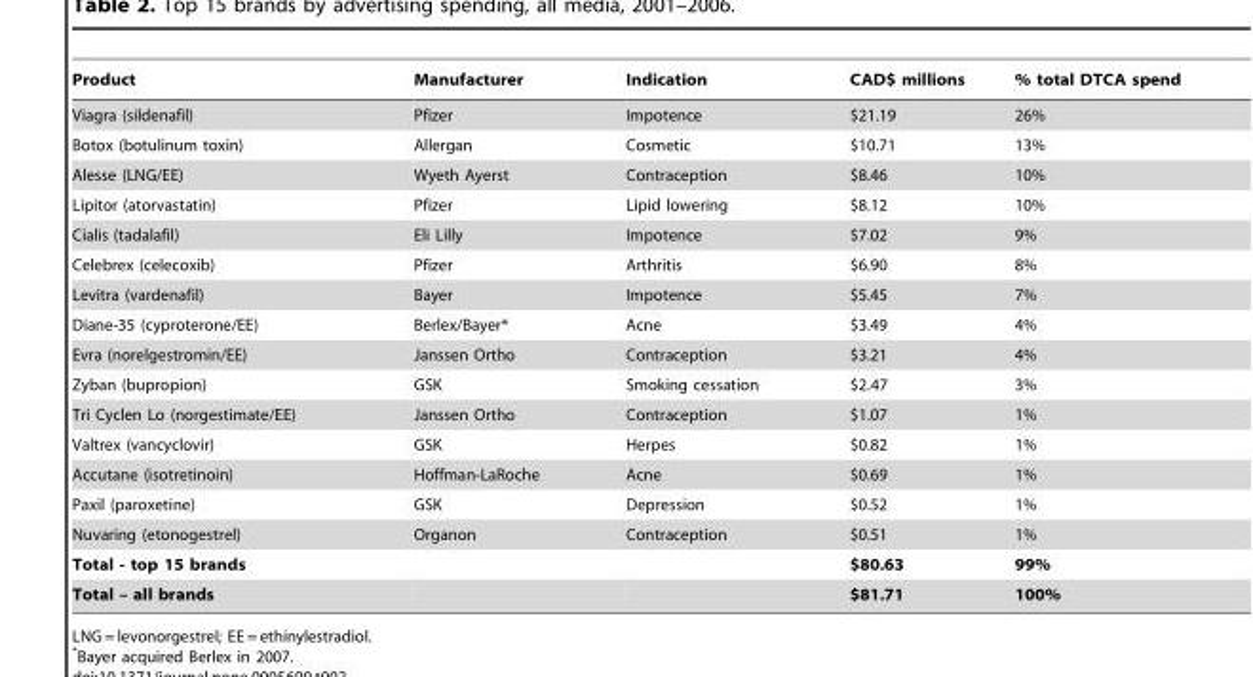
<table><thead><tr><td>Product</td><td>Manufacturer</td><td>Indication</td><td>CAD$ millions</td><td>% total DTCA spend</td></tr></thead><tbody><tr><td>Viagra (sildenafil)</td><td>Pfizer</td><td>Impotence</td><td>$21.19</td><td>26%</td></tr><tr><td>Botox (botulinum toxin)</td><td>Allergan</td><td>Cosmetic</td><td>$10.71</td><td>13%</td></tr><tr><td>Alesse (LNG/EE)</td><td>Wyeth Ayerst</td><td>Contraception</td><td>$8.46</td><td>10%</td></tr><tr><td>Lipitor (atorvastatin)</td><td>Pfizer</td><td>Lipid lowering</td><td>$8.12</td><td>10%</td></tr><tr><td>Cialis (tadalafil)</td><td>Eli Lilly</td><td>Impotence</td><td>$7.02</td><td>9%</td></tr><tr><td>Celebrex (celecoxib)</td><td>Pfizer</td><td>Arthritis</td><td>$6.90</td><td>8%</td></tr><tr><td>Levitra (vardenafil)</td><td>Bayer</td><td>Impotence</td><td>$5.45</td><td>7%</td></tr><tr><td>Diane-35 (cyproterone/EE)</td><td>Berlex/Bayer*</td><td>Acne</td><td>$3.49</td><td>4%</td></tr><tr><td>Evra (norelgestromin/EE)</td><td>Janssen Ortho</td><td>Contraception</td><td>$3.21</td><td>4%</td></tr><tr><td>Zyban (bupropion)</td><td>GSK</td><td>Smoking cessation</td><td>$2.47</td><td>3%</td></tr><tr><td>Tri Cyclen Lo (norgestimate/EE)</td><td>Janssen Ortho</td><td>Contraception</td><td>$1.07</td><td>1%</td></tr><tr><td>Valtrex (vancyclovir)</td><td>GSK</td><td>Herpes</td><td>$0.82</td><td>1%</td></tr><tr><td>Accutane (isotretinoin)</td><td>Hoffman-LaRoche</td><td>Acne</td><td>$0.69</td><td>1%</td></tr><tr><td>Paxil (paroxetine)</td><td>GSK</td><td>Depression</td><td>$0.52</td><td>1%</td></tr><tr><td>Nuvaring (etonogestrel)</td><td>Organon</td><td>Contraception</td><td>$0.51</td><td>1%</td></tr><tr><td>Total - top 15 brands</td><td></td><td></td><td>$80.63</td><td>99%</td></tr><tr><td>Total – all brands</td><td></td><td></td><td>$81.71</td><td>100%</td></tr></tbody></table>